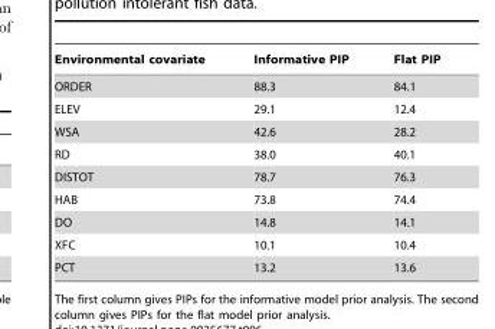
<table><thead><tr><td>Environmental covariate</td><td>Informative PIP</td><td>Flat PIP</td></tr></thead><tbody><tr><td>ORDER</td><td>88.3</td><td>84.1</td></tr><tr><td>ELEV</td><td>29.1</td><td>12.4</td></tr><tr><td>WSA</td><td>42.6</td><td>28.2</td></tr><tr><td>RD</td><td>38.0</td><td>40.1</td></tr><tr><td>DISTOT</td><td>78.7</td><td>76.3</td></tr><tr><td>HAB</td><td>73.8</td><td>74.4</td></tr><tr><td>DO</td><td>14.8</td><td>14.1</td></tr><tr><td>XFC</td><td>10.1</td><td>10.4</td></tr><tr><td>PCT</td><td>13.2</td><td>13.6</td></tr></tbody></table>